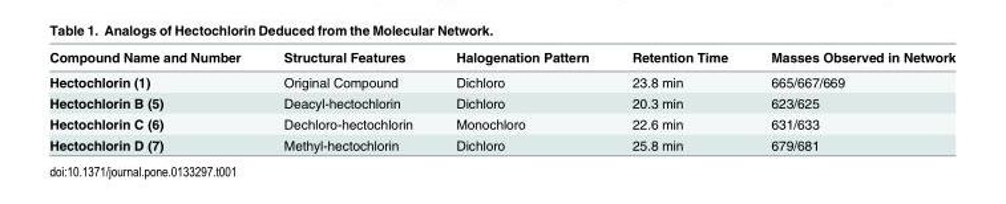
<table><thead><tr><td>Compound Name and Number</td><td>Structural Features</td><td>Halogenation Pattern</td><td>Retention Time</td><td>Masses Observed in Network</td></tr></thead><tbody><tr><td>Hectochlorin (1)</td><td>Original Compound</td><td>Dichloro</td><td>23.8 min</td><td>665/667/669</td></tr><tr><td>Hectochlorin B (5)</td><td>Deacyl-hectochlorin</td><td>Dichloro</td><td>20.3 min</td><td>623/625</td></tr><tr><td>Hectochlorin C (6)</td><td>Dechloro-hectochlorin</td><td>Monochloro</td><td>22.6 min</td><td>631/633</td></tr><tr><td>Hectochlorin D (7)</td><td>Methyl-hectochlorin</td><td>Dichloro</td><td>25.8 min</td><td>679/681</td></tr></tbody></table>